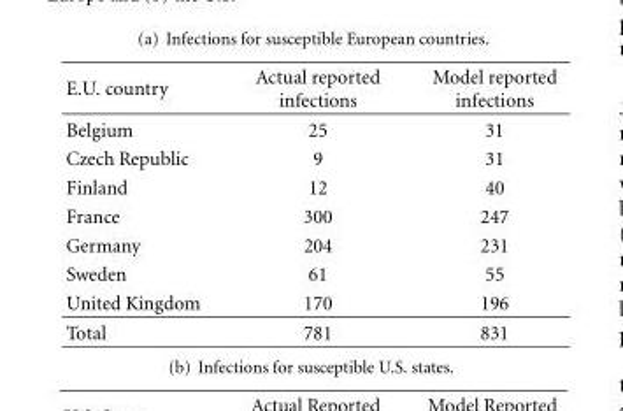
<table><thead><tr><td>E.U. country</td><td>Actual reported infections</td><td>Model reported infections</td></tr></thead><tbody><tr><td>Belgium</td><td>25</td><td>31</td></tr><tr><td>Czech Republic</td><td>9</td><td>31</td></tr><tr><td>Finland</td><td>12</td><td>40</td></tr><tr><td>France</td><td>300</td><td>247</td></tr><tr><td>Germany</td><td>204</td><td>231</td></tr><tr><td>Sweden</td><td>61</td><td>55</td></tr><tr><td>United Kingdom</td><td>170</td><td>196</td></tr><tr><td>Total</td><td>781</td><td>831</td></tr></tbody></table>